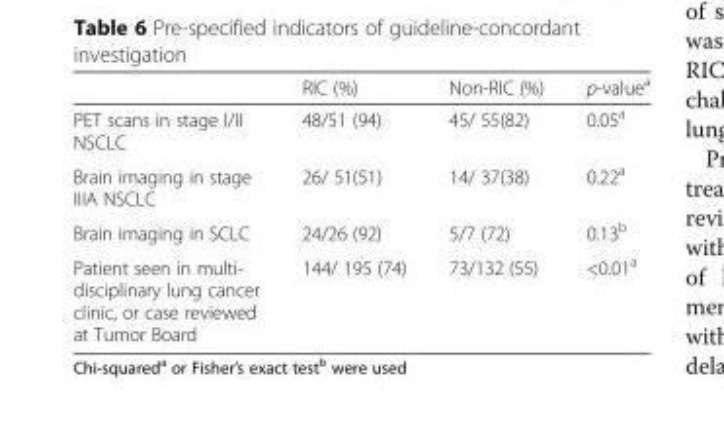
<table><thead><tr><td></td><td>RIC (%)</td><td>Non-RIC (%)</td><td>p-value<sup>a</sup></td></tr></thead><tbody><tr><td>PET scans in stage I/II NSCLC</td><td>48/51 (94)</td><td>45/ 55(82)</td><td>0.05<sup>a</sup></td></tr><tr><td>Brain imaging in stage IIIA NSCLC</td><td>26/ 51(51)</td><td>14/ 37(38)</td><td>0.22<sup>a</sup></td></tr><tr><td>Brain imaging in SCLC</td><td>24/26 (92)</td><td>5/7 (72)</td><td>0.13<sup>b</sup></td></tr><tr><td>Patient seen in multi- disciplinary lung cancer clinic, or case reviewed at Tumor Board</td><td>144/ 195 (74)</td><td>73/132 (55)</td><td>&lt;0.01<sup>a</sup></td></tr></tbody></table>